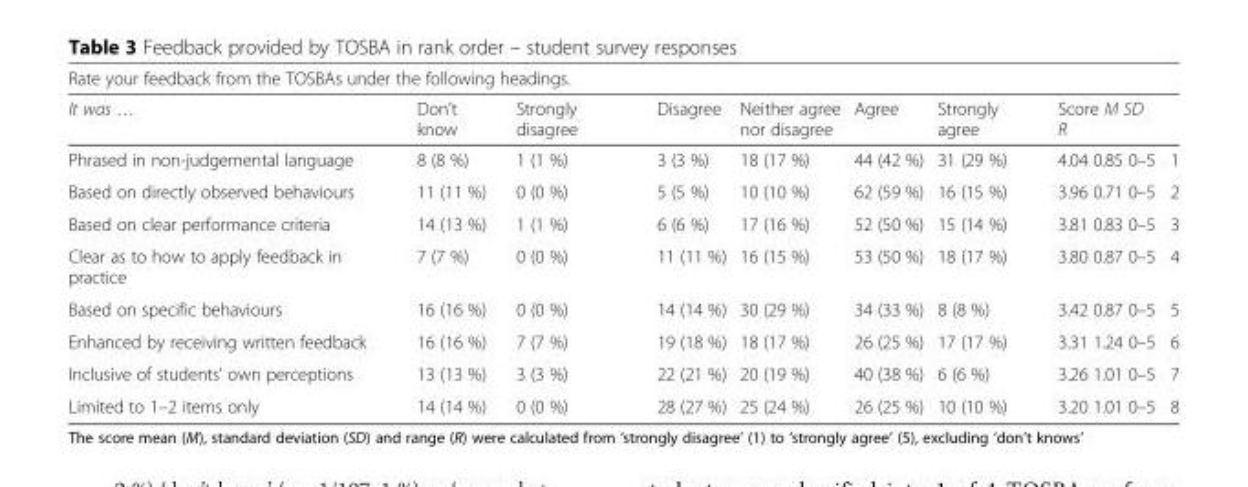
<table><thead><tr><td colspan="9">Rate your feedback from the TOSBAs under the following headings.</td></tr><tr><td>It was …</td><td>Don’t know</td><td>Strongly disagree</td><td>Disagree</td><td>Neither agree nor disagree</td><td>Agree</td><td>Strongly agree</td><td>Score M SD R</td><td></td></tr></thead><tbody><tr><td>Phrased in non-judgemental language</td><td>8 (8 %)</td><td>1 (1 %)</td><td>3 (3 %)</td><td>18 (17 %)</td><td>44 (42 %)</td><td>31 (29 %)</td><td>4.04 0.85 0–5</td><td>1</td></tr><tr><td>Based on directly observed behaviours</td><td>11 (11 %)</td><td>0 (0 %)</td><td>5 (5 %)</td><td>10 (10 %)</td><td>62 (59 %)</td><td>16 (15 %)</td><td>3.96 0.71 0–5</td><td>2</td></tr><tr><td>Based on clear performance criteria</td><td>14 (13 %)</td><td>1 (1 %)</td><td>6 (6 %)</td><td>17 (16 %)</td><td>52 (50 %)</td><td>15 (14 %)</td><td>3.81 0.83 0–5</td><td>3</td></tr><tr><td>Clear as to how to apply feedback in practice</td><td>7 (7 %)</td><td>0 (0 %)</td><td>11 (11 %)</td><td>16 (15 %)</td><td>53 (50 %)</td><td>18 (17 %)</td><td>3.80 0.87 0–5</td><td>4</td></tr><tr><td>Based on specific behaviours</td><td>16 (16 %)</td><td>0 (0 %)</td><td>14 (14 %)</td><td>30 (29 %)</td><td>34 (33 %)</td><td>8 (8 %)</td><td>3.42 0.87 0–5</td><td>5</td></tr><tr><td>Enhanced by receiving written feedback</td><td>16 (16 %)</td><td>7 (7 %)</td><td>19 (18 %)</td><td>18 (17 %)</td><td>26 (25 %)</td><td>17 (17 %)</td><td>3.31 1.24 0–5</td><td>6</td></tr><tr><td>Inclusive of students’ own perceptions</td><td>13 (13 %)</td><td>3 (3 %)</td><td>22 (21 %)</td><td>20 (19 %)</td><td>40 (38 %)</td><td>6 (6 %)</td><td>3.26 1.01 0–5</td><td>7</td></tr><tr><td>Limited to 1–2 items only</td><td>14 (14 %)</td><td>0 (0 %)</td><td>28 (27 %)</td><td>25 (24 %)</td><td>26 (25 %)</td><td>10 (10 %)</td><td>3.20 1.01 0–5</td><td>8</td></tr></tbody></table>